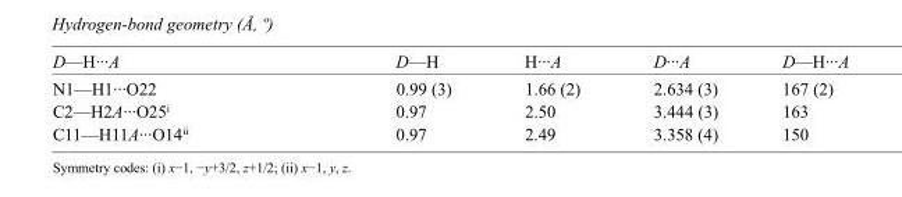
<table><tbody><tr><td>D—H···A</td><td>D—H</td><td>H···A</td><td>D···A</td><td>D—H···A</td></tr><tr><td>N1—H1···O22</td><td>0.99 (3)</td><td>1.66 (2)</td><td>2.634 (3)</td><td>167 (2)</td></tr><tr><td>C2—H2A···O25<sup>i</sup></td><td>0.97</td><td>2.50</td><td>3.444 (3)</td><td>163</td></tr><tr><td>C11—H11A···O14<sup>ii</sup></td><td>0.97</td><td>2.49</td><td>3.358 (4)</td><td>150</td></tr></tbody></table>